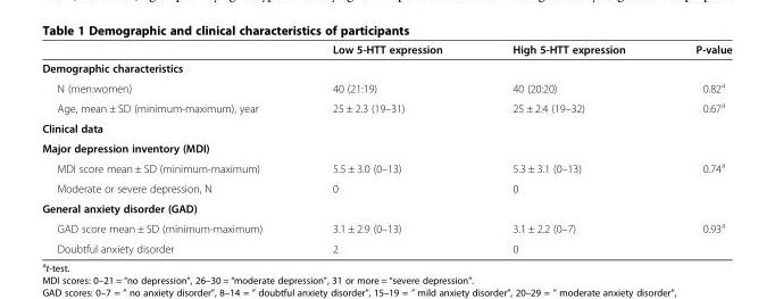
<table><thead><tr><td></td><td>Low 5-HTT expression</td><td>High 5-HTT expression</td><td>P-value</td></tr></thead><tbody><tr><td colspan="4">Demographic characteristics</td></tr><tr><td>N (men:women)</td><td>40 (21:19)</td><td>40 (20:20)</td><td>0.82<sup>a</sup></td></tr><tr><td>Age, mean ± SD (minimum-maximum), year</td><td>25 ± 2.3 (19–31)</td><td>25 ± 2.4 (19–32)</td><td>0.67<sup>a</sup></td></tr><tr><td colspan="4">Clinical data</td></tr><tr><td colspan="4">Major depression inventory (MDI)</td></tr><tr><td>MDI score mean ± SD (minimum-maximum)</td><td>5.5 ± 3.0 (0–13)</td><td>5.3 ± 3.1 (0–13)</td><td>0.74<sup>a</sup></td></tr><tr><td>Moderate or severe depression, N</td><td>0</td><td>0</td><td></td></tr><tr><td colspan="4">General anxiety disorder (GAD)</td></tr><tr><td>GAD score mean ± SD (minimum-maximum)</td><td>3.1 ± 2.9 (0–13)</td><td>3.1 ± 2.2 (0–7)</td><td>0.93<sup>a</sup></td></tr><tr><td>Doubtful anxiety disorder</td><td>2</td><td>0</td><td></td></tr></tbody></table>